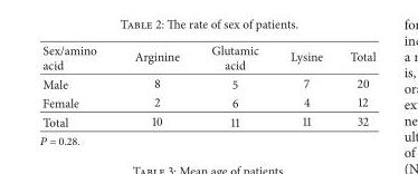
<table><thead><tr><td>Sex/amino acid</td><td>Arginine</td><td>Glutamic acid</td><td>Lysine</td><td>Total</td></tr></thead><tbody><tr><td>Male</td><td>8</td><td>5</td><td>7</td><td>20</td></tr><tr><td>Female</td><td>2</td><td>6</td><td>4</td><td>12</td></tr><tr><td>Total</td><td>10</td><td>11</td><td>11</td><td>32</td></tr></tbody></table>